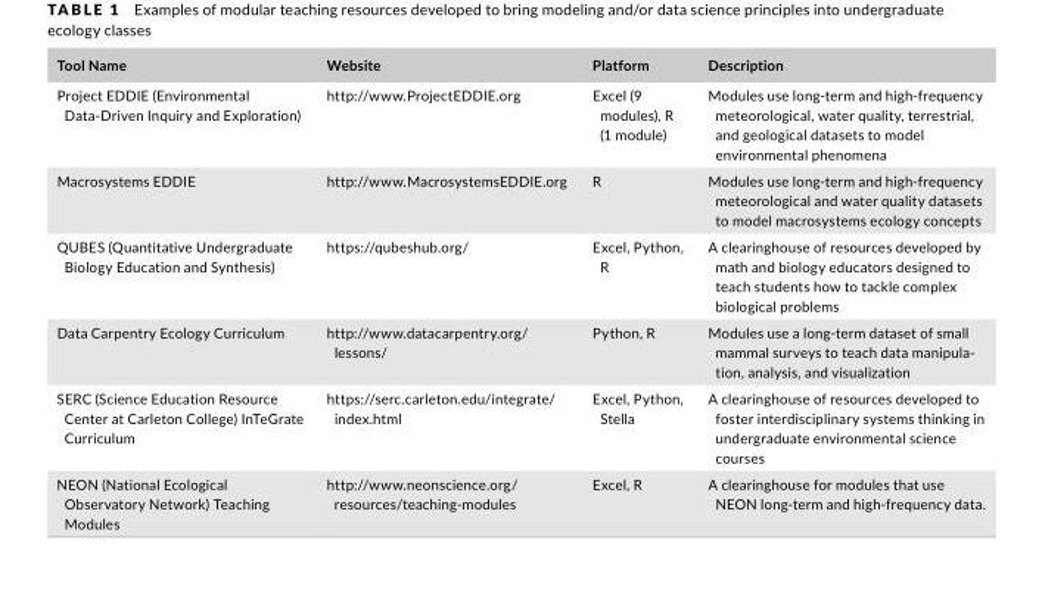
<table><thead><tr><td>Tool Name</td><td>Website</td><td>Platform</td><td>Description</td></tr></thead><tbody><tr><td>Project EDDIE (Environmental Data- Driven Inquiry and Exploration)</td><td>http://www.ProjectEDDIE.org</td><td>Excel (9 modules), R (1 module)</td><td>Modules use long- term and high- frequency meteorological, water quality, terrestrial, and geological datasets to model environmental phenomena</td></tr><tr><td>Macrosystems EDDIE</td><td>http://www.MacrosystemsEDDIE.org</td><td>R</td><td>Modules use long- term and high- frequency meteorological and water quality datasets to model macrosystems ecology concepts</td></tr><tr><td>QUBES (Quantitative Undergraduate Biology Education and Synthesis)</td><td>https://qubeshub.org/</td><td>Excel, Python, R</td><td>A clearinghouse of resources developed by math and biology educators designed to teach students how to tackle complex biological problems</td></tr><tr><td>Data Carpentry Ecology Curriculum</td><td>http://www.datacarpentry.org/ lessons/</td><td>Python, R</td><td>Modules use a long- term dataset of small mammal surveys to teach data manipula- tion, analysis, and visualization</td></tr><tr><td>SERC (Science Education Resource Center at Carleton College) InTeGrate Curriculum</td><td>https://serc.carleton.edu/integrate/ index.html</td><td>Excel, Python, Stella</td><td>A clearinghouse of resources developed to foster interdisciplinary systems thinking in undergraduate environmental science courses</td></tr><tr><td>NEON (National Ecological Observatory Network) Teaching Modules</td><td>http://www.neonscience.org/ resources/teaching-modules</td><td>Excel, R</td><td>A clearinghouse for modules that use NEON long- term and high- frequency data.</td></tr></tbody></table>